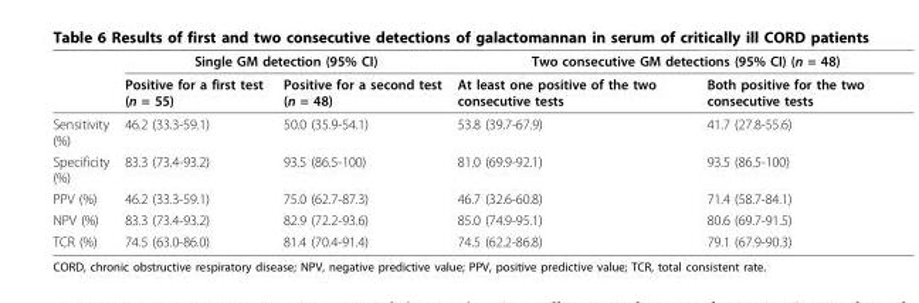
<table><thead><tr><td rowspan="2"></td><td colspan="2">Single GM detection (95% CI)</td><td colspan="2">Two consecutive GM detections (95% CI) (n = 48)</td></tr><tr><td>Positive for a first test (n = 55)</td><td>Positive for a second test (n = 48)</td><td>At least one positive of the two consecutive tests</td><td>Both positive for the two consecutive tests</td></tr></thead><tbody><tr><td>Sensitivity (%)</td><td>46.2 (33.3-59.1)</td><td>50.0 (35.9-54.1)</td><td>53.8 (39.7-67.9)</td><td>41.7 (27.8-55.6)</td></tr><tr><td>Specificity (%)</td><td>83.3 (73.4-93.2)</td><td>93.5 (86.5-100)</td><td>81.0 (69.9-92.1)</td><td>93.5 (86.5-100)</td></tr><tr><td>PPV (%)</td><td>46.2 (33.3-59.1)</td><td>75.0 (62.7-87.3)</td><td>46.7 (32.6-60.8)</td><td>71.4 (58.7-84.1)</td></tr><tr><td>NPV (%)</td><td>83.3 (73.4-93.2)</td><td>82.9 (72.2-93.6)</td><td>85.0 (74.9-95.1)</td><td>80.6 (69.7-91.5)</td></tr><tr><td>TCR (%)</td><td>74.5 (63.0-86.0)</td><td>81.4 (70.4-91.4)</td><td>74.5 (62.2-86.8)</td><td>79.1 (67.9-90.3)</td></tr></tbody></table>